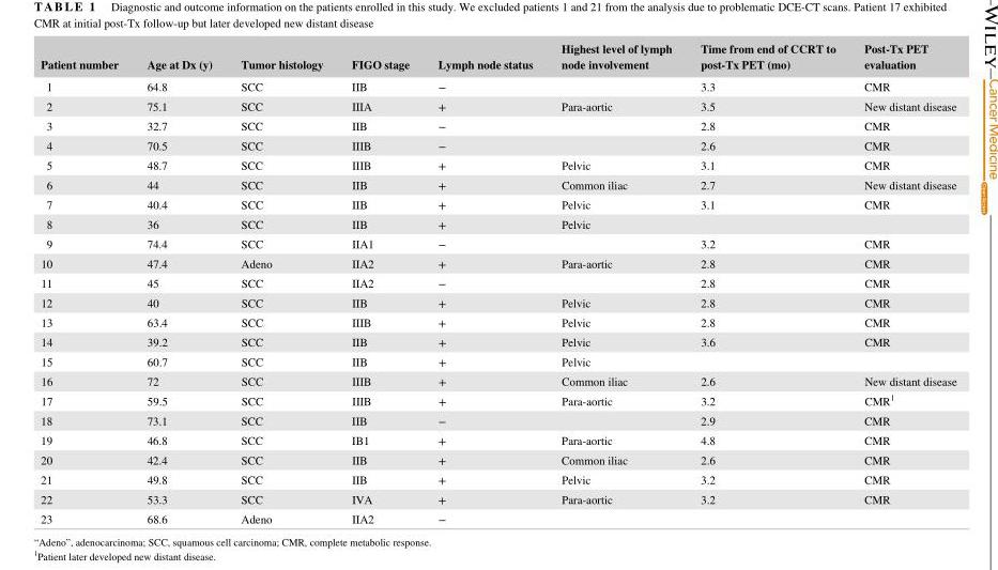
<table><thead><tr><td>Patient number</td><td>Age at Dx (y)</td><td>Tumor histology</td><td>FIGO stage</td><td>Lymph node status</td><td>Highest level of lymph node involvement</td><td>Time from end of CCRT to post- Tx PET (mo)</td><td>Post- Tx PET evaluation</td></tr></thead><tbody><tr><td>1</td><td>64.8</td><td>SCC</td><td>IIB</td><td>−</td><td></td><td>3.3</td><td>CMR</td></tr><tr><td>2</td><td>75.1</td><td>SCC</td><td>IIIA</td><td>+</td><td>Para- aortic</td><td>3.5</td><td>New distant disease</td></tr><tr><td>3</td><td>32.7</td><td>SCC</td><td>IIB</td><td>−</td><td></td><td>2.8</td><td>CMR</td></tr><tr><td>4</td><td>70.5</td><td>SCC</td><td>IIIB</td><td>−</td><td></td><td>2.6</td><td>CMR</td></tr><tr><td>5</td><td>48.7</td><td>SCC</td><td>IIIB</td><td>+</td><td>Pelvic</td><td>3.1</td><td>CMR</td></tr><tr><td>6</td><td>44</td><td>SCC</td><td>IIB</td><td>+</td><td>Common iliac</td><td>2.7</td><td>New distant disease</td></tr><tr><td>7</td><td>40.4</td><td>SCC</td><td>IIB</td><td>+</td><td>Pelvic</td><td>3.1</td><td>CMR</td></tr><tr><td>8</td><td>36</td><td>SCC</td><td>IIB</td><td>+</td><td>Pelvic</td><td></td><td></td></tr><tr><td>9</td><td>74.4</td><td>SCC</td><td>IIA1</td><td>−</td><td></td><td>3.2</td><td>CMR</td></tr><tr><td>10</td><td>47.4</td><td>Adeno</td><td>IIA2</td><td>+</td><td>Para- aortic</td><td>2.8</td><td>CMR</td></tr><tr><td>11</td><td>45</td><td>SCC</td><td>IIA2</td><td>−</td><td></td><td>2.8</td><td>CMR</td></tr><tr><td>12</td><td>40</td><td>SCC</td><td>IIB</td><td>+</td><td>Pelvic</td><td>2.8</td><td>CMR</td></tr><tr><td>13</td><td>63.4</td><td>SCC</td><td>IIIB</td><td>+</td><td>Pelvic</td><td>2.8</td><td>CMR</td></tr><tr><td>14</td><td>39.2</td><td>SCC</td><td>IIB</td><td>+</td><td>Pelvic</td><td>3.6</td><td>CMR</td></tr><tr><td>15</td><td>60.7</td><td>SCC</td><td>IIB</td><td>+</td><td>Pelvic</td><td></td><td></td></tr><tr><td>16</td><td>72</td><td>SCC</td><td>IIIB</td><td>+</td><td>Common iliac</td><td>2.6</td><td>New distant disease</td></tr><tr><td>17</td><td>59.5</td><td>SCC</td><td>IIIB</td><td>+</td><td>Para- aortic</td><td>3.2</td><td>CMR1</td></tr><tr><td>18</td><td>73.1</td><td>SCC</td><td>IIB</td><td>−</td><td></td><td>2.9</td><td>CMR</td></tr><tr><td>19</td><td>46.8</td><td>SCC</td><td>IB1</td><td>+</td><td>Para- aortic</td><td>4.8</td><td>CMR</td></tr><tr><td>20</td><td>42.4</td><td>SCC</td><td>IIB</td><td>+</td><td>Common iliac</td><td>2.6</td><td>CMR</td></tr><tr><td>21</td><td>49.8</td><td>SCC</td><td>IIB</td><td>+</td><td>Pelvic</td><td>3.2</td><td>CMR</td></tr><tr><td>22</td><td>53.3</td><td>SCC</td><td>IVA</td><td>+</td><td>Para- aortic</td><td>3.2</td><td>CMR</td></tr><tr><td>23</td><td>68.6</td><td>Adeno</td><td>IIA2</td><td>−</td><td></td><td></td><td></td></tr></tbody></table>